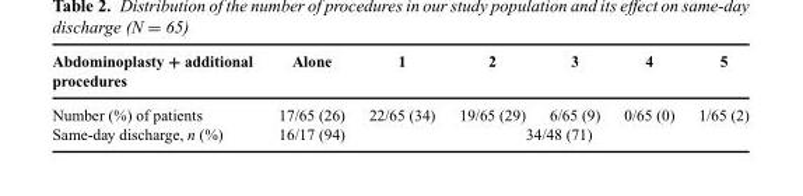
<table><thead><tr><td>Abdominoplasty + additional procedures</td><td>Alone</td><td>1</td><td>2</td><td>3</td><td>4</td><td>5</td></tr></thead><tbody><tr><td>Number (%) of patients</td><td>17/65 (26)</td><td>22/65 (34)</td><td>19/65 (29)</td><td>6/65 (9)</td><td>0/65 (0)</td><td>1/65 (2)</td></tr><tr><td>Same-day discharge, n (%)</td><td>16/17 (94)</td><td colspan="5">34/48 (71)</td></tr></tbody></table>